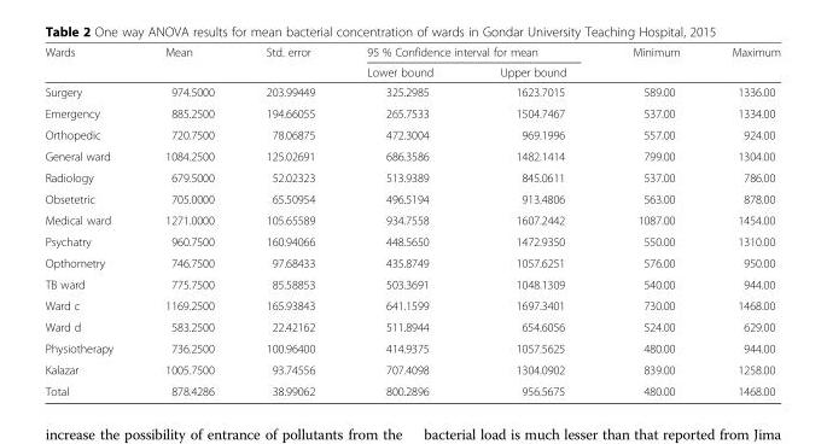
<table><thead><tr><td rowspan="2">Wards</td><td rowspan="2">Mean</td><td rowspan="2">Std. error</td><td colspan="2">95 % Confidence interval for mean</td><td rowspan="2">Minimum</td><td rowspan="2">Maximum</td></tr><tr><td>Lower bound</td><td>Upper bound</td></tr></thead><tbody><tr><td>Surgery</td><td>974.5000</td><td>203.99449</td><td>325.2985</td><td>1623.7015</td><td>589.00</td><td>1336.00</td></tr><tr><td>Emergency</td><td>885.2500</td><td>194.66055</td><td>265.7533</td><td>1504.7467</td><td>537.00</td><td>1334.00</td></tr><tr><td>Orthopedic</td><td>720.7500</td><td>78.06875</td><td>472.3004</td><td>969.1996</td><td>557.00</td><td>924.00</td></tr><tr><td>General ward</td><td>1084.2500</td><td>125.02691</td><td>686.3586</td><td>1482.1414</td><td>799.00</td><td>1304.00</td></tr><tr><td>Radiology</td><td>679.5000</td><td>52.02323</td><td>513.9389</td><td>845.0611</td><td>537.00</td><td>786.00</td></tr><tr><td>Obsetetric</td><td>705.0000</td><td>65.50954</td><td>496.5194</td><td>913.4806</td><td>563.00</td><td>878.00</td></tr><tr><td>Medical ward</td><td>1271.0000</td><td>105.65589</td><td>934.7558</td><td>1607.2442</td><td>1087.00</td><td>1454.00</td></tr><tr><td>Psychatry</td><td>960.7500</td><td>160.94066</td><td>448.5650</td><td>1472.9350</td><td>550.00</td><td>1310.00</td></tr><tr><td>Opthometry</td><td>746.7500</td><td>97.68433</td><td>435.8749</td><td>1057.6251</td><td>576.00</td><td>950.00</td></tr><tr><td>TB ward</td><td>775.7500</td><td>85.58853</td><td>503.3691</td><td>1048.1309</td><td>540.00</td><td>944.00</td></tr><tr><td>Ward c</td><td>1169.2500</td><td>165.93843</td><td>641.1599</td><td>1697.3401</td><td>730.00</td><td>1468.00</td></tr><tr><td>Ward d</td><td>583.2500</td><td>22.42162</td><td>511.8944</td><td>654.6056</td><td>524.00</td><td>629.00</td></tr><tr><td>Physiotherapy</td><td>736.2500</td><td>100.96400</td><td>414.9375</td><td>1057.5625</td><td>480.00</td><td>944.00</td></tr><tr><td>Kalazar</td><td>1005.7500</td><td>93.74556</td><td>707.4098</td><td>1304.0902</td><td>839.00</td><td>1258.00</td></tr><tr><td>Total</td><td>878.4286</td><td>38.99062</td><td>800.2896</td><td>956.5675</td><td>480.00</td><td>1468.00</td></tr></tbody></table>